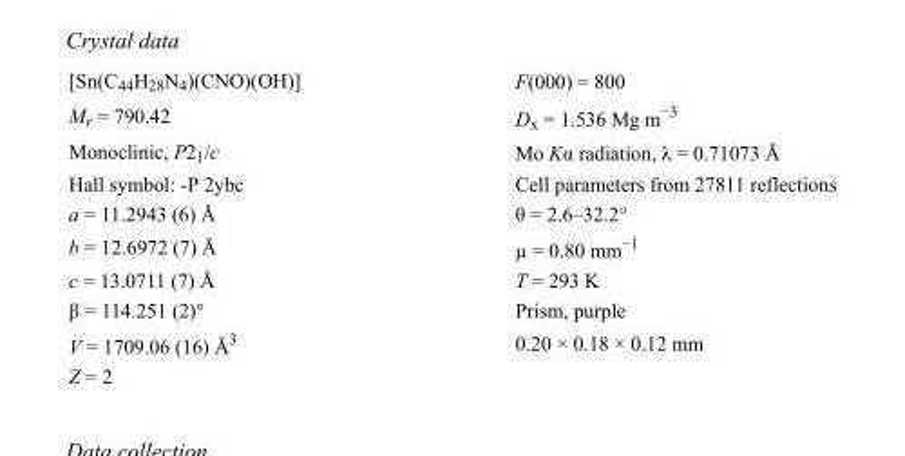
<table><tbody><tr><td>[Sn(C<sub>44</sub>H<sub>28</sub>N<sub>4</sub>)(CNO)(OH)]</td><td>F(000) = 800</td></tr><tr><td>M<sub>r</sub> = 790.42</td><td>D<sub>x</sub> = 1.536 Mg m<sup>−3</sup></td></tr><tr><td>Monoclinic, P2<sub>1</sub>/c</td><td>Mo Kα radiation, λ = 0.71073 Å</td></tr><tr><td>Hall symbol: -P 2ybc</td><td>Cell parameters from 27811 reflections</td></tr><tr><td>a = 11.2943 (6) Å</td><td>θ = 2.6–32.2°</td></tr><tr><td>b = 12.6972 (7) Å</td><td>µ = 0.80 mm<sup>−1</sup></td></tr><tr><td>c = 13.0711 (7) Å</td><td>T = 293 K</td></tr><tr><td>β = 114.251 (2)°</td><td>Prism, purple</td></tr><tr><td>V = 1709.06 (16) Å<sup>3</sup></td><td>0.20 × 0.18 × 0.12 mm</td></tr><tr><td>Z = 2</td><td></td></tr></tbody></table>